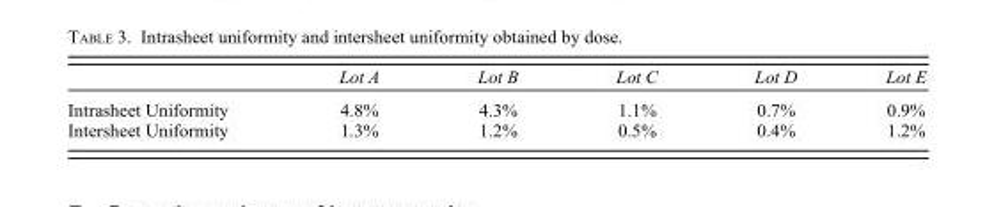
<table><thead><tr><td></td><td>Lot A</td><td>Lot B</td><td>Lot C</td><td>Lot D</td><td>Lot E</td></tr></thead><tbody><tr><td>Intrasheet Uniformity</td><td>4.8%</td><td>4.3%</td><td>1.1%</td><td>0.7%</td><td>0.9%</td></tr><tr><td>Intersheet Uniformity</td><td>1.3%</td><td>1.2%</td><td>0.5%</td><td>0.4%</td><td>1.2%</td></tr></tbody></table>